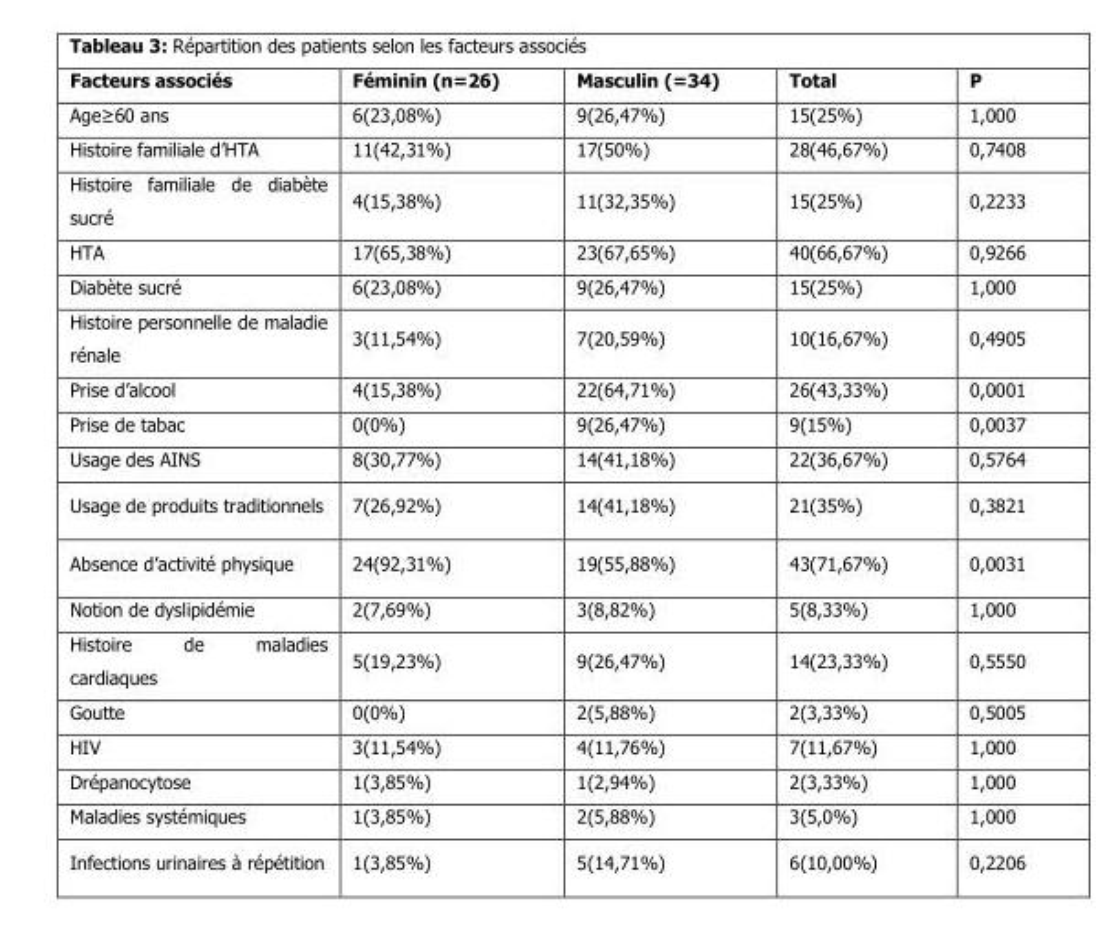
<table><thead><tr><td>Facteurs associés</td><td>Féminin (n=26)</td><td>Masculin (=34)</td><td>Total</td><td>P</td></tr></thead><tbody><tr><td>Age≥60 ans</td><td>6(23,08%)</td><td>9(26,47%)</td><td>15(25%)</td><td>1,000</td></tr><tr><td>Histoire familiale d’HTA</td><td>11(42,31%)</td><td>17(50%)</td><td>28(46,67%)</td><td>0,7408</td></tr><tr><td>Histoire familiale de diabète sucré</td><td>4(15,38%)</td><td>11(32,35%)</td><td>15(25%)</td><td>0,2233</td></tr><tr><td>HTA</td><td>17(65,38%)</td><td>23(67,65%)</td><td>40(66,67%)</td><td>0,9266</td></tr><tr><td>Diabète sucré</td><td>6(23,08%)</td><td>9(26,47%)</td><td>15(25%)</td><td>1,000</td></tr><tr><td>Histoire personnelle de maladie rénale</td><td>3(11,54%)</td><td>7(20,59%)</td><td>10(16,67%)</td><td>0,4905</td></tr><tr><td>Prise d’alcool</td><td>4(15,38%)</td><td>22(64,71%)</td><td>26(43,33%)</td><td>0,0001</td></tr><tr><td>Prise de tabac</td><td>0(0%)</td><td>9(26,47%)</td><td>9(15%)</td><td>0,0037</td></tr><tr><td>Usage des AINS</td><td>8(30,77%)</td><td>14(41,18%)</td><td>22(36,67%)</td><td>0,5764</td></tr><tr><td>Usage de produits traditionnels</td><td>7(26,92%)</td><td>14(41,18%)</td><td>21(35%)</td><td>0,3821</td></tr><tr><td>Absence d’activité physique</td><td>24(92,31%)</td><td>19(55,88%)</td><td>43(71,67%)</td><td>0,0031</td></tr><tr><td>Notion de dyslipidémie</td><td>2(7,69%)</td><td>3(8,82%)</td><td>5(8,33%)</td><td>1,000</td></tr><tr><td>Histoire de maladies cardiaques</td><td>5(19,23%)</td><td>9(26,47%)</td><td>14(23,33%)</td><td>0,5550</td></tr><tr><td>Goutte</td><td>0(0%)</td><td>2(5,88%)</td><td>2(3,33%)</td><td>0,5005</td></tr><tr><td>HIV</td><td>3(11,54%)</td><td>4(11,76%)</td><td>7(11,67%)</td><td>1,000</td></tr><tr><td>Drépanocytose</td><td>1(3,85%)</td><td>1(2,94%)</td><td>2(3,33%)</td><td>1,000</td></tr><tr><td>Maladies systémiques</td><td>1(3,85%)</td><td>2(5,88%)</td><td>3(5,0%)</td><td>1,000</td></tr><tr><td>Infections urinaires à répétition</td><td>1(3,85%)</td><td>5(14,71%)</td><td>6(10,00%)</td><td>0,2206</td></tr></tbody></table>